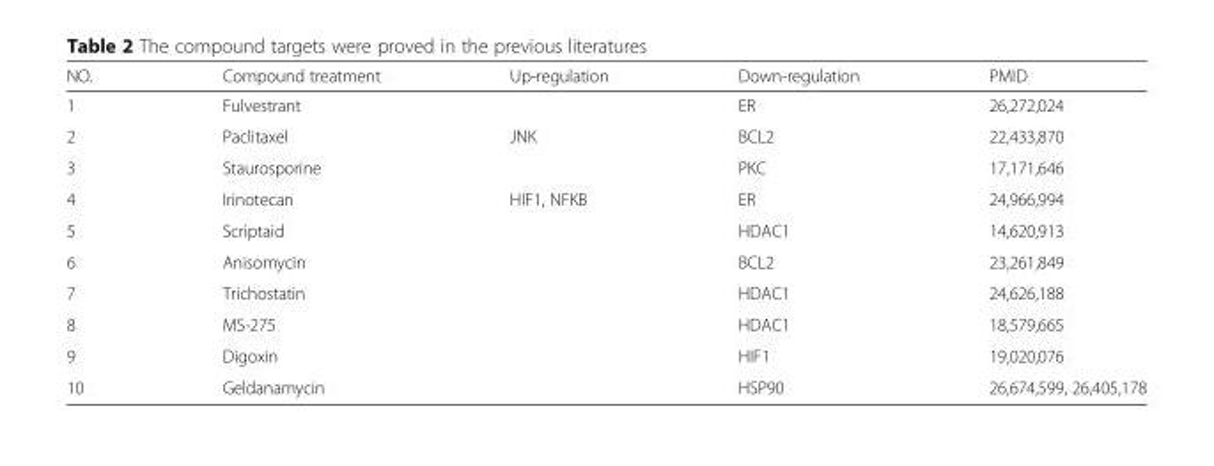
<table><thead><tr><td>NO.</td><td>Compound treatment</td><td>Up-regulation</td><td>Down-regulation</td><td>PMID</td></tr></thead><tbody><tr><td>1</td><td>Fulvestrant</td><td></td><td>ER</td><td>26,272,024</td></tr><tr><td>2</td><td>Paclitaxel</td><td>JNK</td><td>BCL2</td><td>22,433,870</td></tr><tr><td>3</td><td>Staurosporine</td><td></td><td>PKC</td><td>17,171,646</td></tr><tr><td>4</td><td>Irinotecan</td><td>HIF1, NFKB</td><td>ER</td><td>24,966,994</td></tr><tr><td>5</td><td>Scriptaid</td><td></td><td>HDAC1</td><td>14,620,913</td></tr><tr><td>6</td><td>Anisomycin</td><td></td><td>BCL2</td><td>23,261,849</td></tr><tr><td>7</td><td>Trichostatin</td><td></td><td>HDAC1</td><td>24,626,188</td></tr><tr><td>8</td><td>MS-275</td><td></td><td>HDAC1</td><td>18,579,665</td></tr><tr><td>9</td><td>Digoxin</td><td></td><td>HIF1</td><td>19,020,076</td></tr><tr><td>10</td><td>Geldanamycin</td><td></td><td>HSP90</td><td>26,674,599, 26,405,178</td></tr></tbody></table>